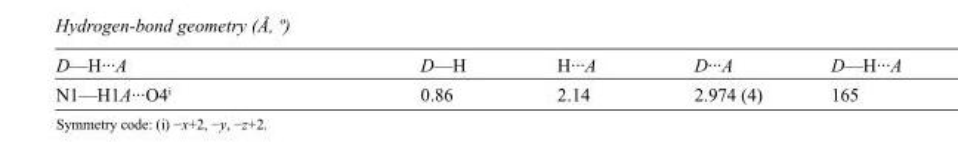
<table><tbody><tr><td>D—H···A</td><td>D—H</td><td>H···A</td><td>D···A</td><td>D—H···A</td></tr><tr><td>N1—H1A···O4<sup>i</sup></td><td>0.86</td><td>2.14</td><td>2.974 (4)</td><td>165</td></tr></tbody></table>